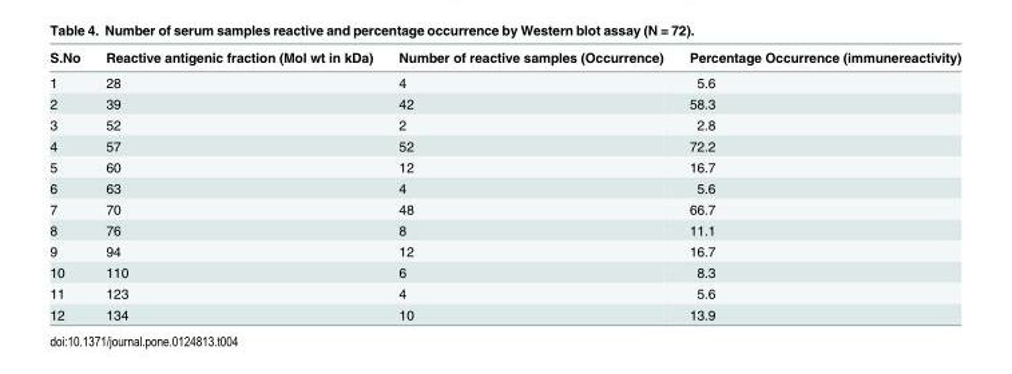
<table><thead><tr><td>S.No</td><td>Reactive antigenic fraction (Mol wt in kDa)</td><td>Number of reactive samples (Occurrence)</td><td>Percentage Occurrence (immunereactivity)</td></tr></thead><tbody><tr><td>1</td><td>28</td><td>4</td><td>5.6</td></tr><tr><td>2</td><td>39</td><td>42</td><td>58.3</td></tr><tr><td>3</td><td>52</td><td>2</td><td>2.8</td></tr><tr><td>4</td><td>57</td><td>52</td><td>72.2</td></tr><tr><td>5</td><td>60</td><td>12</td><td>16.7</td></tr><tr><td>6</td><td>63</td><td>4</td><td>5.6</td></tr><tr><td>7</td><td>70</td><td>48</td><td>66.7</td></tr><tr><td>8</td><td>76</td><td>8</td><td>11.1</td></tr><tr><td>9</td><td>94</td><td>12</td><td>16.7</td></tr><tr><td>10</td><td>110</td><td>6</td><td>8.3</td></tr><tr><td>11</td><td>123</td><td>4</td><td>5.6</td></tr><tr><td>12</td><td>134</td><td>10</td><td>13.9</td></tr></tbody></table>